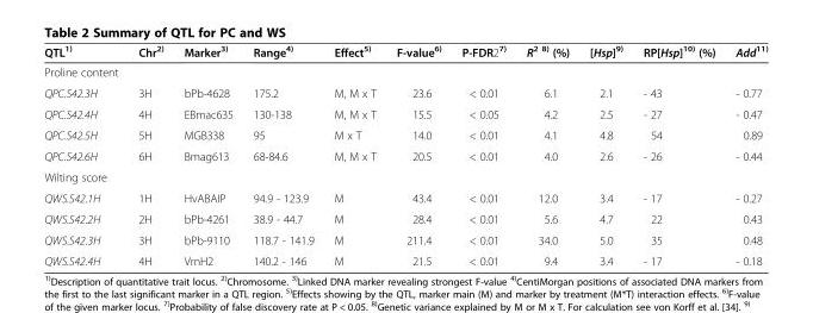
<table><thead><tr><td>QTL<sup>1)</sup></td><td>Chr<sup>2)</sup></td><td>Marker<sup>3)</sup></td><td>Range<sup>4)</sup></td><td>Effect<sup>5)</sup></td><td>F-value<sup>6)</sup></td><td>P-FDR2<sup>7)</sup></td><td>R<sup>2 8)</sup> (%)</td><td>[Hsp]<sup>9)</sup></td><td>RP[Hsp]<sup>10)</sup> (%)</td><td>Add<sup>11)</sup></td></tr></thead><tbody><tr><td colspan="11">Proline content</td></tr><tr><td>QPC.S42.3H</td><td>3H</td><td>bPb-4628</td><td>175.2</td><td>M, M x T</td><td>23.6</td><td>&lt; 0.01</td><td>6.1</td><td>2.1</td><td>- 43</td><td>- 0.77</td></tr><tr><td>QPC.S42.4H</td><td>4H</td><td>EBmac635</td><td>130-138</td><td>M, M x T</td><td>15.5</td><td>&lt; 0.05</td><td>4.2</td><td>2.5</td><td>- 27</td><td>- 0.47</td></tr><tr><td>QPC.S42.5H</td><td>5H</td><td>MGB338</td><td>95</td><td>M x T</td><td>14.0</td><td>&lt; 0.01</td><td>4.1</td><td>4.8</td><td>54</td><td>0.89</td></tr><tr><td>QPC.S42.6H</td><td>6H</td><td>Bmag613</td><td>68-84.6</td><td>M, M x T</td><td>20.5</td><td>&lt; 0.01</td><td>4.0</td><td>2.6</td><td>- 26</td><td>- 0.44</td></tr><tr><td colspan="11">Wilting score</td></tr><tr><td>QWS.S42.1H</td><td>1H</td><td>HvABAIP</td><td>94.9 - 123.9</td><td>M</td><td>43.4</td><td>&lt; 0.01</td><td>12.0</td><td>3.4</td><td>- 17</td><td>- 0.27</td></tr><tr><td>QWS.S42.2H</td><td>2H</td><td>bPb-4261</td><td>38.9 - 44.7</td><td>M</td><td>28.4</td><td>&lt; 0.01</td><td>5.6</td><td>4.7</td><td>22</td><td>0.43</td></tr><tr><td>QWS.S42.3H</td><td>3H</td><td>bPb-9110</td><td>118.7 - 141.9</td><td>M</td><td>211.4</td><td>&lt; 0.01</td><td>34.0</td><td>5.0</td><td>35</td><td>0.48</td></tr><tr><td>QWS.S42.4H</td><td>4H</td><td>VrnH2</td><td>140.2 - 146</td><td>M</td><td>21.5</td><td>&lt; 0.01</td><td>9.4</td><td>3.4</td><td>- 17</td><td>- 0.18</td></tr></tbody></table>